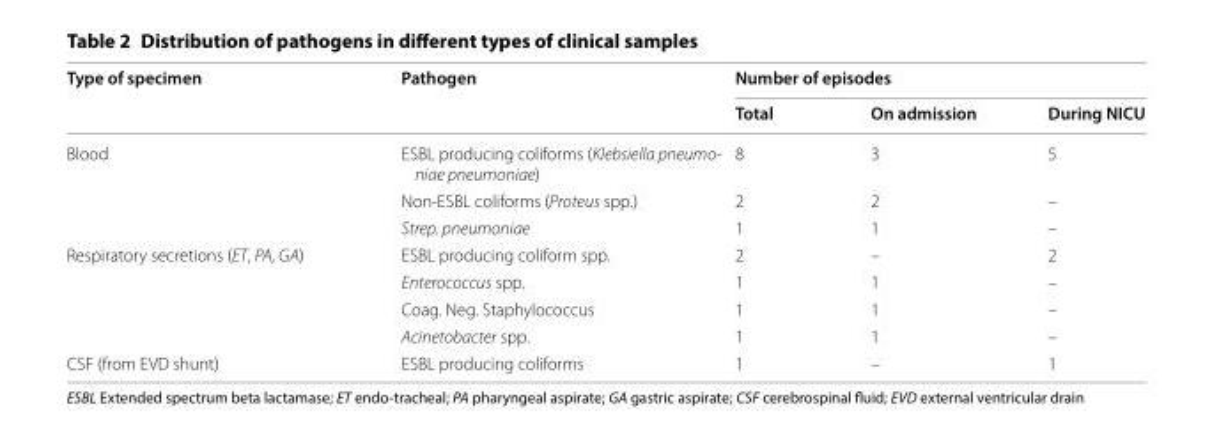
<table><thead><tr><td rowspan="2">Type of specimen</td><td rowspan="2">Pathogen</td><td colspan="3">Number of episodes</td></tr><tr><td>Total</td><td>On admission</td><td>During NICU</td></tr></thead><tbody><tr><td rowspan="3">Blood</td><td>ESBL producing coliforms (Klebsiella pneumo- niae pneumoniae)</td><td>8</td><td>3</td><td>5</td></tr><tr><td>Non-ESBL coliforms (Proteus spp.)</td><td>2</td><td>2</td><td>–</td></tr><tr><td>Strep. pneumoniae</td><td>1</td><td>1</td><td>–</td></tr><tr><td rowspan="4">Respiratory secretions (ET, PA, GA)</td><td>ESBL producing coliform spp.</td><td>2</td><td>–</td><td>2</td></tr><tr><td>Enterococcus spp.</td><td>1</td><td>1</td><td>–</td></tr><tr><td>Coag. Neg. Staphylococcus</td><td>1</td><td>1</td><td>–</td></tr><tr><td>Acinetobacter spp.</td><td>1</td><td>1</td><td>–</td></tr><tr><td>CSF (from EVD shunt)</td><td>ESBL producing coliforms</td><td>1</td><td>–</td><td>1</td></tr></tbody></table>